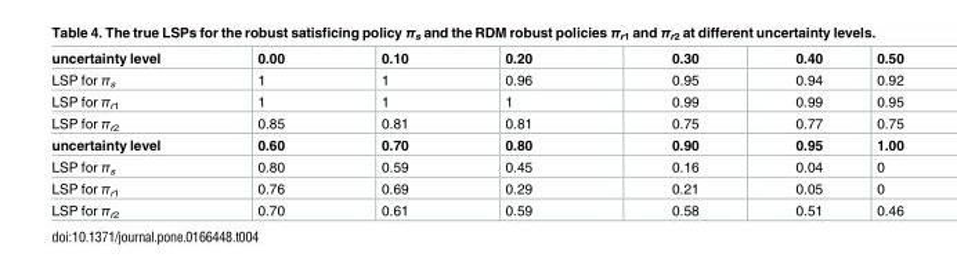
<table><tbody><tr><td>uncertainty level</td><td>0.00</td><td>0.10</td><td>0.20</td><td>0.30</td><td>0.40</td><td>0.50</td></tr><tr><td>LSP for π<sub>s</sub></td><td>1</td><td>1</td><td>0.96</td><td>0.95</td><td>0.94</td><td>0.92</td></tr><tr><td>LSP for π<sub>r1</sub></td><td>1</td><td>1</td><td>1</td><td>0.99</td><td>0.99</td><td>0.95</td></tr><tr><td>LSP for π<sub>r2</sub></td><td>0.85</td><td>0.81</td><td>0.81</td><td>0.75</td><td>0.77</td><td>0.75</td></tr><tr><td>uncertainty level</td><td>0.60</td><td>0.70</td><td>0.80</td><td>0.90</td><td>0.95</td><td>1.00</td></tr><tr><td>LSP for π<sub>s</sub></td><td>0.80</td><td>0.59</td><td>0.45</td><td>0.16</td><td>0.04</td><td>0</td></tr><tr><td>LSP for π<sub>r1</sub></td><td>0.76</td><td>0.69</td><td>0.29</td><td>0.21</td><td>0.05</td><td>0</td></tr><tr><td>LSP for π<sub>r2</sub></td><td>0.70</td><td>0.61</td><td>0.59</td><td>0.58</td><td>0.51</td><td>0.46</td></tr></tbody></table>